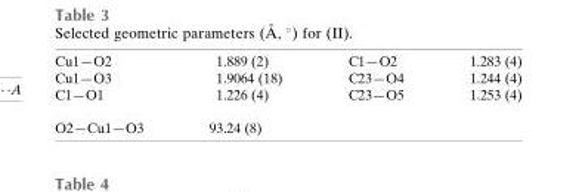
<table><tbody><tr><td>Cu1—O2</td><td>1.889 (2)</td><td>C1—O2</td><td>1.283 (4)</td></tr><tr><td>Cu1—O3</td><td>1.9064 (18)</td><td>C23—O4</td><td>1.244 (4)</td></tr><tr><td>C1—O1</td><td>1.226 (4)</td><td>C23—O5</td><td>1.253 (4)</td></tr><tr><td>O2—Cu1—O3</td><td>93.24 (8)</td><td></td><td></td></tr></tbody></table>